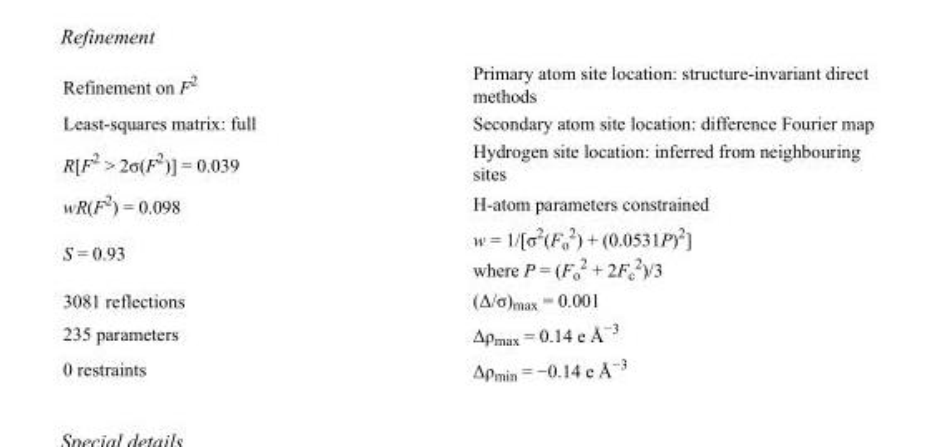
<table><tbody><tr><td>Refinement on F<sup>2</sup></td><td>Primary atom site location: structure-invariant direct methods</td></tr><tr><td>Least-squares matrix: full</td><td>Secondary atom site location: difference Fourier map</td></tr><tr><td>R[F<sup>2</sup> &gt; 2σ(F<sup>2</sup>)] = 0.039</td><td>Hydrogen site location: inferred from neighbouring sites</td></tr><tr><td>wR(F<sup>2</sup>) = 0.098</td><td>H-atom parameters constrained</td></tr><tr><td>S = 0.93</td><td>w = 1/[σ<sup>2</sup>(F<sub>o</sub> <sup>2</sup>) + (0.0531P)<sup>2</sup>] where P = (F<sub>o</sub> <sup>2</sup> + 2F<sub>c</sub> <sup>2</sup>)/3</td></tr><tr><td>3081 reflections</td><td>(Δ/σ)<sub>max</sub> = 0.001</td></tr><tr><td>235 parameters</td><td>Δρ<sub>max</sub> = 0.14 e Å<sup>−3</sup></td></tr><tr><td>0 restraints</td><td>Δρ<sub>min</sub> = −0.14 e Å<sup>−3</sup></td></tr></tbody></table>